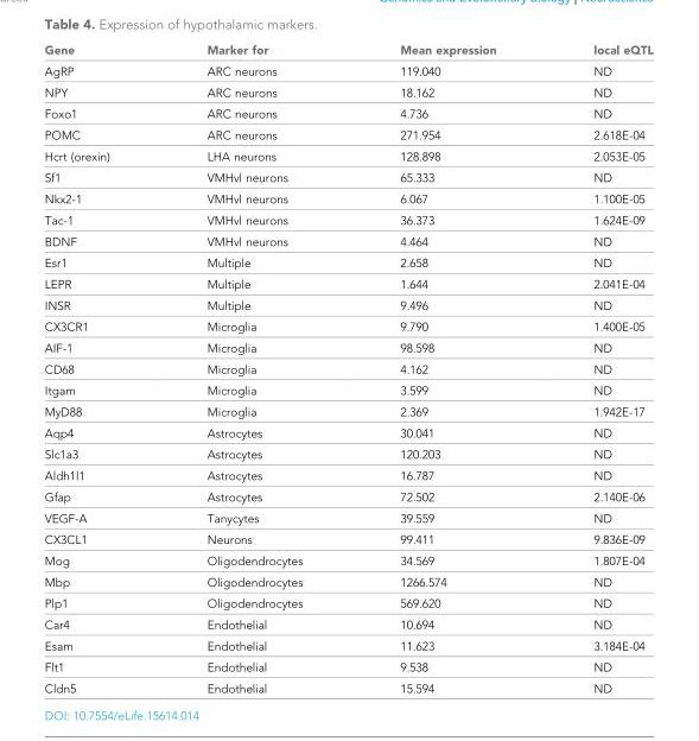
<table><thead><tr><td>Gene</td><td>Marker for</td><td>Mean expression</td><td>local eQTL</td></tr></thead><tbody><tr><td>AgRP</td><td>ARC neurons</td><td>119.040</td><td>ND</td></tr><tr><td>NPY</td><td>ARC neurons</td><td>18.162</td><td>ND</td></tr><tr><td>Foxo1</td><td>ARC neurons</td><td>4.736</td><td>ND</td></tr><tr><td>POMC</td><td>ARC neurons</td><td>271.954</td><td>2.618E-04</td></tr><tr><td>Hcrt (orexin)</td><td>LHA neurons</td><td>128.898</td><td>2.053E-05</td></tr><tr><td>Sf1</td><td>VMHvl neurons</td><td>65.333</td><td>ND</td></tr><tr><td>Nkx2-1</td><td>VMHvl neurons</td><td>6.067</td><td>1.100E-05</td></tr><tr><td>Tac-1</td><td>VMHvl neurons</td><td>36.373</td><td>1.624E-09</td></tr><tr><td>BDNF</td><td>VMHvl neurons</td><td>4.464</td><td>ND</td></tr><tr><td>Esr1</td><td>Multiple</td><td>2.658</td><td>ND</td></tr><tr><td>LEPR</td><td>Multiple</td><td>1.644</td><td>2.041E-04</td></tr><tr><td>INSR</td><td>Multiple</td><td>9.496</td><td>ND</td></tr><tr><td>CX3CR1</td><td>Microglia</td><td>9.790</td><td>1.400E-05</td></tr><tr><td>AIF-1</td><td>Microglia</td><td>98.598</td><td>ND</td></tr><tr><td>CD68</td><td>Microglia</td><td>4.162</td><td>ND</td></tr><tr><td>Itgam</td><td>Microglia</td><td>3.599</td><td>ND</td></tr><tr><td>MyD88</td><td>Microglia</td><td>2.369</td><td>1.942E-17</td></tr><tr><td>Aqp4</td><td>Astrocytes</td><td>30.041</td><td>ND</td></tr><tr><td>Slc1a3</td><td>Astrocytes</td><td>120.203</td><td>ND</td></tr><tr><td>Aldh1l1</td><td>Astrocytes</td><td>16.787</td><td>ND</td></tr><tr><td>Gfap</td><td>Astrocytes</td><td>72.502</td><td>2.140E-06</td></tr><tr><td>VEGF-A</td><td>Tanycytes</td><td>39.559</td><td>ND</td></tr><tr><td>CX3CL1</td><td>Neurons</td><td>99.411</td><td>9.836E-09</td></tr><tr><td>Mog</td><td>Oligodendrocytes</td><td>34.569</td><td>1.807E-04</td></tr><tr><td>Mbp</td><td>Oligodendrocytes</td><td>1266.574</td><td>ND</td></tr><tr><td>Plp1</td><td>Oligodendrocytes</td><td>569.620</td><td>ND</td></tr><tr><td>Car4</td><td>Endothelial</td><td>10.694</td><td>ND</td></tr><tr><td>Esam</td><td>Endothelial</td><td>11.623</td><td>3.184E-04</td></tr><tr><td>Flt1</td><td>Endothelial</td><td>9.538</td><td>ND</td></tr><tr><td>Cldn5</td><td>Endothelial</td><td>15.594</td><td>ND</td></tr></tbody></table>